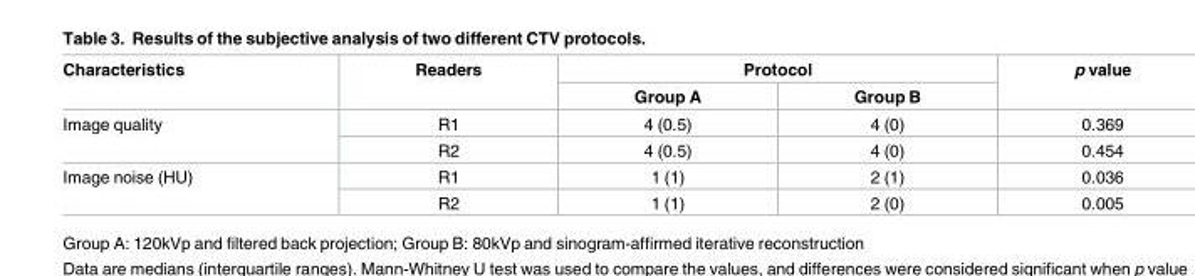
<table><thead><tr><td rowspan="2">Characteristics</td><td rowspan="2">Readers</td><td colspan="2">Protocol</td><td rowspan="2">p value</td></tr><tr><td>Group A</td><td>Group B</td></tr></thead><tbody><tr><td rowspan="2">Image quality</td><td>R1</td><td>4 (0.5)</td><td>4 (0)</td><td>0.369</td></tr><tr><td>R2</td><td>4 (0.5)</td><td>4 (0)</td><td>0.454</td></tr><tr><td rowspan="2">Image noise (HU)</td><td>R1</td><td>1 (1)</td><td>2 (1)</td><td>0.036</td></tr><tr><td>R2</td><td>1 (1)</td><td>2 (0)</td><td>0.005</td></tr></tbody></table>